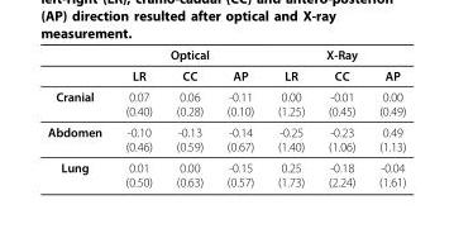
<table><thead><tr><td rowspan="2"></td><td colspan="3">Optical</td><td colspan="3">X-Ray</td></tr><tr><td>LR</td><td>CC</td><td>AP</td><td>LR</td><td>CC</td><td>AP</td></tr></thead><tbody><tr><td>Cranial</td><td>0.07 (0.40)</td><td>0.06 (0.28)</td><td>-0.11 (0.10)</td><td>0.00 (1.25)</td><td>-0.01 (0.45)</td><td>0.00 (0.49)</td></tr><tr><td>Abdomen</td><td>-0.10 (0.46)</td><td>-0.13 (0.59)</td><td>-0.14 (0.67)</td><td>-0.25 (1.40)</td><td>-0.23 (1.06)</td><td>0.49 (1.13)</td></tr><tr><td>Lung</td><td>0.01 (0.50)</td><td>0.00 (0.63)</td><td>-0.15 (0.57)</td><td>0.25 (1.73)</td><td>-0.18 (2.24)</td><td>-0.04 (1.61)</td></tr></tbody></table>